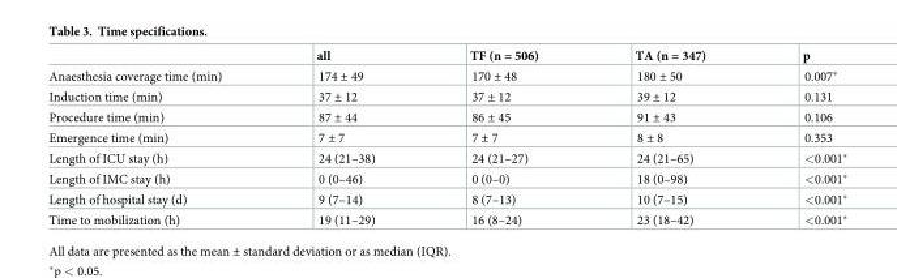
<table><thead><tr><td></td><td>all</td><td>TF (n = 506)</td><td>TA (n = 347)</td><td>p</td></tr></thead><tbody><tr><td>Anaesthesia coverage time (min)</td><td>174 ± 49</td><td>170 ± 48</td><td>180 ± 50</td><td>0.007*</td></tr><tr><td>Induction time (min)</td><td>37 ± 12</td><td>37 ± 12</td><td>39 ± 12</td><td>0.131</td></tr><tr><td>Procedure time (min)</td><td>87 ± 44</td><td>86 ± 45</td><td>91 ± 43</td><td>0.106</td></tr><tr><td>Emergence time (min)</td><td>7 ± 7</td><td>7 ± 7</td><td>8 ± 8</td><td>0.353</td></tr><tr><td>Length of ICU stay (h)</td><td>24 (21–38)</td><td>24 (21–27)</td><td>24 (21–65)</td><td>&lt;0.001*</td></tr><tr><td>Length of IMC stay (h)</td><td>0 (0–46)</td><td>0 (0–0)</td><td>18 (0–98)</td><td>&lt;0.001*</td></tr><tr><td>Length of hospital stay (d)</td><td>9 (7–14)</td><td>8 (7–13)</td><td>10 (7–15)</td><td>&lt;0.001*</td></tr><tr><td>Time to mobilization (h)</td><td>19 (11–29)</td><td>16 (8–24)</td><td>23 (18–42)</td><td>&lt;0.001*</td></tr></tbody></table>